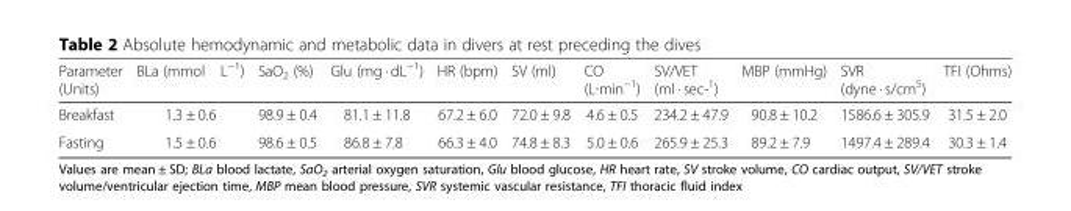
<table><thead><tr><td>Parameter (Units)</td><td>BLa (mmol L−1)</td><td>SaO<sub>2</sub> (%)</td><td>Glu (mg · dL<sup>−1</sup>)</td><td>HR (bpm)</td><td>SV (ml)</td><td>CO (L∙min<sup>−1</sup>)</td><td>SV/VET (ml · sec-<sup>1</sup>)</td><td>MBP (mmHg)</td><td>SVR (dyne · s/cm<sup>5</sup>)</td><td>TFI (Ohms)</td></tr></thead><tbody><tr><td>Breakfast</td><td>1.3 ± 0.6</td><td>98.9 ± 0.4</td><td>81.1 ± 11.8</td><td>67.2 ± 6.0</td><td>72.0 ± 9.8</td><td>4.6 ± 0.5</td><td>234.2 ± 47.9</td><td>90.8 ± 10.2</td><td>1586.6 ± 305.9</td><td>31.5 ± 2.0</td></tr><tr><td>Fasting</td><td>1.5 ± 0.6</td><td>98.6 ± 0.5</td><td>86.8 ± 7.8</td><td>66.3 ± 4.0</td><td>74.8 ± 8.3</td><td>5.0 ± 0.6</td><td>265.9 ± 25.3</td><td>89.2 ± 7.9</td><td>1497.4 ± 289.4</td><td>30.3 ± 1.4</td></tr></tbody></table>